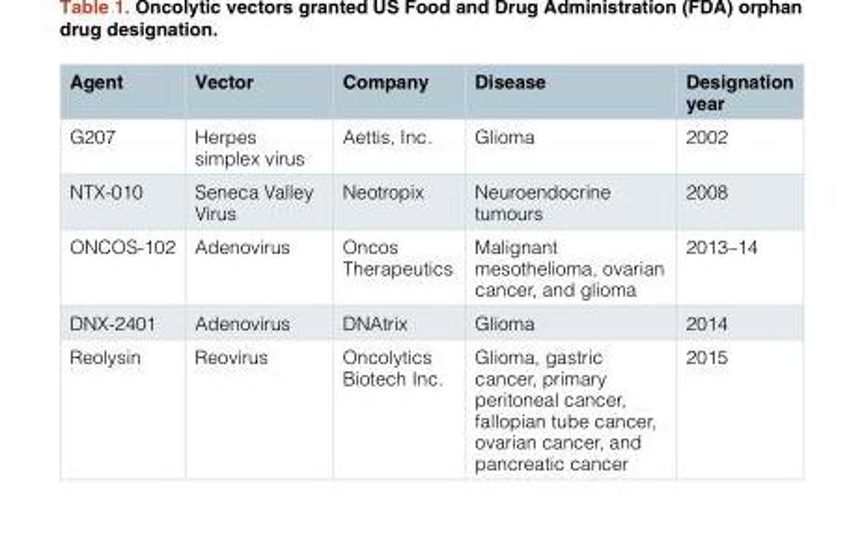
<table><thead><tr><td>Agent</td><td>Vector</td><td>Company</td><td>Disease</td><td>Designation year</td></tr></thead><tbody><tr><td>G207</td><td>Herpes simplex virus</td><td>Aettis, Inc.</td><td>Glioma</td><td>2002</td></tr><tr><td>NTX-010</td><td>Seneca Valley Virus</td><td>Neotropix</td><td>Neuroendocrine tumours</td><td>2008</td></tr><tr><td>ONCOS-102</td><td>Adenovirus</td><td>Oncos Therapeutics</td><td>Malignant mesothelioma, ovarian cancer, and glioma</td><td>2013–14</td></tr><tr><td>DNX-2401</td><td>Adenovirus</td><td>DNAtrix</td><td>Glioma</td><td>2014</td></tr><tr><td>Reolysin</td><td>Reovirus</td><td>Oncolytics Biotech Inc.</td><td>Glioma, gastric cancer, primary peritoneal cancer, fallopian tube cancer, ovarian cancer, and pancreatic cancer</td><td>2015</td></tr></tbody></table>